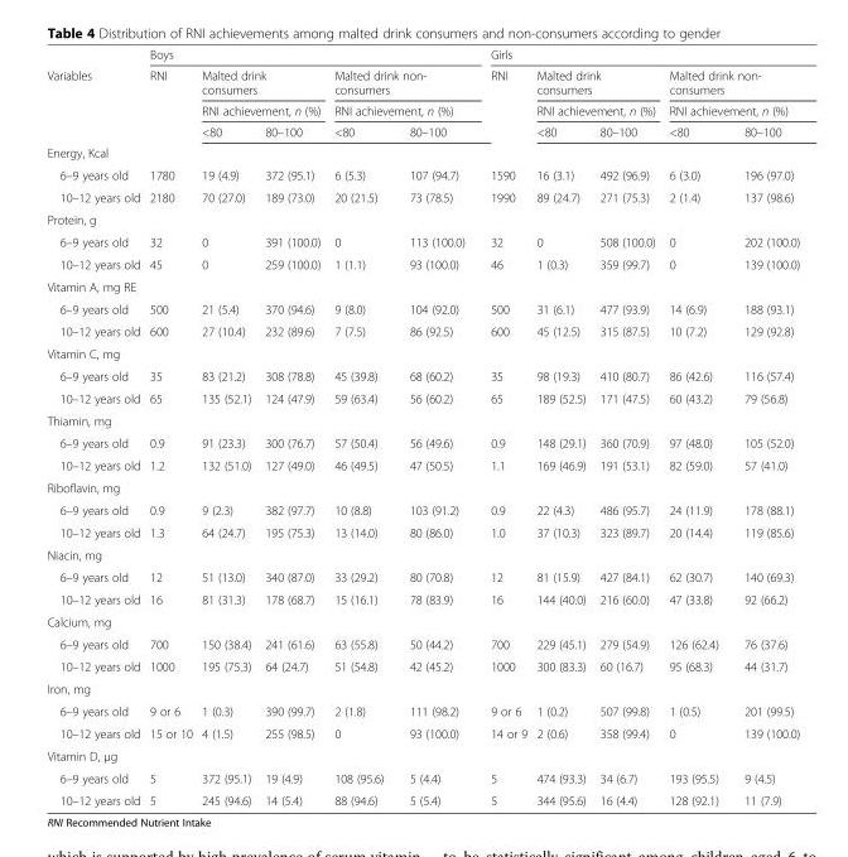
<table><thead><tr><td rowspan="4">Variables</td><td colspan="5">Boys</td><td colspan="5">Girls</td></tr><tr><td rowspan="3">RNI</td><td rowspan="2" colspan="2">Malted drink consumers RNI achievement, n (%)</td><td rowspan="2" colspan="2">Malted drink non- consumers RNI achievement, n (%)</td><td rowspan="3">RNI</td><td rowspan="2" colspan="2">Malted drink consumers RNI achievement, n (%)</td><td rowspan="2" colspan="2">Malted drink non- consumers RNI achievement, n (%)</td></tr><tr></tr><tr><td>&lt;80</td><td>80–100</td><td>&lt;80</td><td>80–100</td><td>&lt;80</td><td>80–100</td><td>&lt;80</td><td>80–100</td></tr></thead><tbody><tr><td colspan="11">Energy, Kcal</td></tr><tr><td>6–9 years old</td><td>1780</td><td>19 (4.9)</td><td>372 (95.1)</td><td>6 (5.3)</td><td>107 (94.7)</td><td>1590</td><td>16 (3.1)</td><td>492 (96.9)</td><td>6 (3.0)</td><td>196 (97.0)</td></tr><tr><td>10–12 years old</td><td>2180</td><td>70 (27.0)</td><td>189 (73.0)</td><td>20 (21.5)</td><td>73 (78.5)</td><td>1990</td><td>89 (24.7)</td><td>271 (75.3)</td><td>2 (1.4)</td><td>137 (98.6)</td></tr><tr><td colspan="11">Protein, g</td></tr><tr><td>6–9 years old</td><td>32</td><td>0</td><td>391 (100.0)</td><td>0</td><td>113 (100.0)</td><td>32</td><td>0</td><td>508 (100.0)</td><td>0</td><td>202 (100.0)</td></tr><tr><td>10–12 years old</td><td>45</td><td>0</td><td>259 (100.0)</td><td>1 (1.1)</td><td>93 (100.0)</td><td>46</td><td>1 (0.3)</td><td>359 (99.7)</td><td>0</td><td>139 (100.0)</td></tr><tr><td colspan="11">Vitamin A, mg RE</td></tr><tr><td>6–9 years old</td><td>500</td><td>21 (5.4)</td><td>370 (94.6)</td><td>9 (8.0)</td><td>104 (92.0)</td><td>500</td><td>31 (6.1)</td><td>477 (93.9)</td><td>14 (6.9)</td><td>188 (93.1)</td></tr><tr><td>10–12 years old</td><td>600</td><td>27 (10.4)</td><td>232 (89.6)</td><td>7 (7.5)</td><td>86 (92.5)</td><td>600</td><td>45 (12.5)</td><td>315 (87.5)</td><td>10 (7.2)</td><td>129 (92.8)</td></tr><tr><td colspan="11">Vitamin C, mg</td></tr><tr><td>6–9 years old</td><td>35</td><td>83 (21.2)</td><td>308 (78.8)</td><td>45 (39.8)</td><td>68 (60.2)</td><td>35</td><td>98 (19.3)</td><td>410 (80.7)</td><td>86 (42.6)</td><td>116 (57.4)</td></tr><tr><td>10–12 years old</td><td>65</td><td>135 (52.1)</td><td>124 (47.9)</td><td>59 (63.4)</td><td>56 (60.2)</td><td>65</td><td>189 (52.5)</td><td>171 (47.5)</td><td>60 (43.2)</td><td>79 (56.8)</td></tr><tr><td colspan="11">Thiamin, mg</td></tr><tr><td>6–9 years old</td><td>0.9</td><td>91 (23.3)</td><td>300 (76.7)</td><td>57 (50.4)</td><td>56 (49.6)</td><td>0.9</td><td>148 (29.1)</td><td>360 (70.9)</td><td>97 (48.0)</td><td>105 (52.0)</td></tr><tr><td>10–12 years old</td><td>1.2</td><td>132 (51.0)</td><td>127 (49.0)</td><td>46 (49.5)</td><td>47 (50.5)</td><td>1.1</td><td>169 (46.9)</td><td>191 (53.1)</td><td>82 (59.0)</td><td>57 (41.0)</td></tr><tr><td colspan="11">Riboflavin, mg</td></tr><tr><td>6–9 years old</td><td>0.9</td><td>9 (2.3)</td><td>382 (97.7)</td><td>10 (8.8)</td><td>103 (91.2)</td><td>0.9</td><td>22 (4.3)</td><td>486 (95.7)</td><td>24 (11.9)</td><td>178 (88.1)</td></tr><tr><td>10–12 years old</td><td>1.3</td><td>64 (24.7)</td><td>195 (75.3)</td><td>13 (14.0)</td><td>80 (86.0)</td><td>1.0</td><td>37 (10.3)</td><td>323 (89.7)</td><td>20 (14.4)</td><td>119 (85.6)</td></tr><tr><td colspan="11">Niacin, mg</td></tr><tr><td>6–9 years old</td><td>12</td><td>51 (13.0)</td><td>340 (87.0)</td><td>33 (29.2)</td><td>80 (70.8)</td><td>12</td><td>81 (15.9)</td><td>427 (84.1)</td><td>62 (30.7)</td><td>140 (69.3)</td></tr><tr><td>10–12 years old</td><td>16</td><td>81 (31.3)</td><td>178 (68.7)</td><td>15 (16.1)</td><td>78 (83.9)</td><td>16</td><td>144 (40.0)</td><td>216 (60.0)</td><td>47 (33.8)</td><td>92 (66.2)</td></tr><tr><td colspan="11">Calcium, mg</td></tr><tr><td>6–9 years old</td><td>700</td><td>150 (38.4)</td><td>241 (61.6)</td><td>63 (55.8)</td><td>50 (44.2)</td><td>700</td><td>229 (45.1)</td><td>279 (54.9)</td><td>126 (62.4)</td><td>76 (37.6)</td></tr><tr><td>10–12 years old</td><td>1000</td><td>195 (75.3)</td><td>64 (24.7)</td><td>51 (54.8)</td><td>42 (45.2)</td><td>1000</td><td>300 (83.3)</td><td>60 (16.7)</td><td>95 (68.3)</td><td>44 (31.7)</td></tr><tr><td colspan="11">Iron, mg</td></tr><tr><td>6–9 years old</td><td>9 or 6</td><td>1 (0.3)</td><td>390 (99.7)</td><td>2 (1.8)</td><td>111 (98.2)</td><td>9 or 6</td><td>1 (0.2)</td><td>507 (99.8)</td><td>1 (0.5)</td><td>201 (99.5)</td></tr><tr><td>10–12 years old</td><td>15 or 10</td><td>4 (1.5)</td><td>255 (98.5)</td><td>0</td><td>93 (100.0)</td><td>14 or 9</td><td>2 (0.6)</td><td>358 (99.4)</td><td>0</td><td>139 (100.0)</td></tr><tr><td colspan="11">Vitamin D, μg</td></tr><tr><td>6–9 years old</td><td>5</td><td>372 (95.1)</td><td>19 (4.9)</td><td>108 (95.6)</td><td>5 (4.4)</td><td>5</td><td>474 (93.3)</td><td>34 (6.7)</td><td>193 (95.5)</td><td>9 (4.5)</td></tr><tr><td>10–12 years old</td><td>5</td><td>245 (94.6)</td><td>14 (5.4)</td><td>88 (94.6)</td><td>5 (5.4)</td><td>5</td><td>344 (95.6)</td><td>16 (4.4)</td><td>128 (92.1)</td><td>11 (7.9)</td></tr></tbody></table>